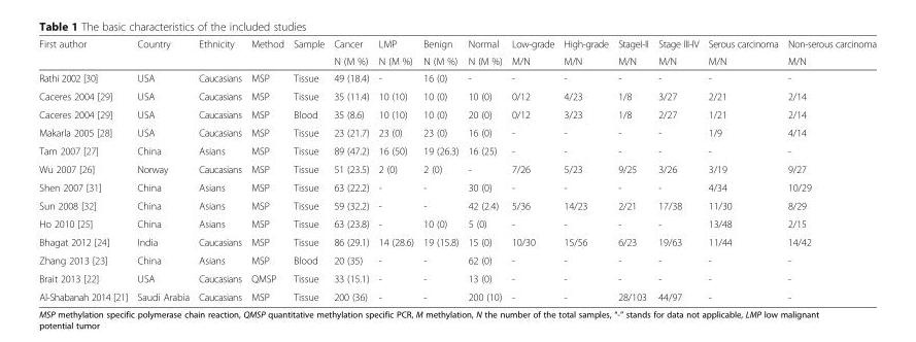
<table><thead><tr><td rowspan="2">First author</td><td rowspan="2">Country</td><td rowspan="2">Ethnicity</td><td rowspan="2">Method</td><td rowspan="2">Sample</td><td rowspan="2">Cancer N (M %)</td><td rowspan="2">LMP N (M %)</td><td rowspan="2">Benign N (M %)</td><td rowspan="2">Normal N (M %)</td><td rowspan="2">Low-grade M/N</td><td rowspan="2">High-grade M/N</td><td rowspan="2">StageI-II M/N</td><td rowspan="2">Stage III-IV M/N</td><td rowspan="2">Serous carcinoma M/N</td><td rowspan="2">Non-serous carcinoma M/N</td></tr><tr></tr></thead><tbody><tr><td>Rathi 2002 [30]</td><td>USA</td><td>Caucasians</td><td>MSP</td><td>Tissue</td><td>49 (18.4)</td><td>-</td><td>16 (0)</td><td>-</td><td>-</td><td>-</td><td>-</td><td>-</td><td>-</td><td>-</td></tr><tr><td>Caceres 2004 [29]</td><td>USA</td><td>Caucasians</td><td>MSP</td><td>Tissue</td><td>35 (11.4)</td><td>10 (10)</td><td>10 (0)</td><td>10 (0)</td><td>0/12</td><td>4/23</td><td>1/8</td><td>3/27</td><td>2/21</td><td>2/14</td></tr><tr><td>Caceres 2004 [29]</td><td>USA</td><td>Caucasians</td><td>MSP</td><td>Blood</td><td>35 (8.6)</td><td>10 (10)</td><td>10 (0)</td><td>20 (0)</td><td>0/12</td><td>3/23</td><td>1/8</td><td>2/27</td><td>1/21</td><td>2/14</td></tr><tr><td>Makarla 2005 [28]</td><td>USA</td><td>Caucasians</td><td>MSP</td><td>Tissue</td><td>23 (21.7)</td><td>23 (0)</td><td>23 (0)</td><td>16 (0)</td><td>-</td><td>-</td><td>-</td><td>-</td><td>1/9</td><td>4/14</td></tr><tr><td>Tam 2007 [27]</td><td>China</td><td>Asians</td><td>MSP</td><td>Tissue</td><td>89 (47.2)</td><td>16 (50)</td><td>19 (26.3)</td><td>16 (25)</td><td>-</td><td>-</td><td>-</td><td>-</td><td>-</td><td>-</td></tr><tr><td>Wu 2007 [26]</td><td>Norway</td><td>Caucasians</td><td>MSP</td><td>Tissue</td><td>51 (23.5)</td><td>2 (0)</td><td>2 (0)</td><td>-</td><td>7/26</td><td>5/23</td><td>9/25</td><td>3/26</td><td>3/19</td><td>9/27</td></tr><tr><td>Shen 2007 [31]</td><td>China</td><td>Asians</td><td>MSP</td><td>Tissue</td><td>63 (22.2)</td><td>-</td><td>-</td><td>30 (0)</td><td>-</td><td>-</td><td>-</td><td>-</td><td>4/34</td><td>10/29</td></tr><tr><td>Sun 2008 [32]</td><td>China</td><td>Asians</td><td>MSP</td><td>Tissue</td><td>59 (32.2)</td><td>-</td><td>-</td><td>42 (2.4)</td><td>5/36</td><td>14/23</td><td>2/21</td><td>17/38</td><td>11/30</td><td>8/29</td></tr><tr><td>Ho 2010 [25]</td><td>China</td><td>Asians</td><td>MSP</td><td>Tissue</td><td>63 (23.8)</td><td>-</td><td>10 (0)</td><td>5 (0)</td><td>-</td><td>-</td><td>-</td><td>-</td><td>13/48</td><td>2/15</td></tr><tr><td>Bhagat 2012 [24]</td><td>India</td><td>Caucasians</td><td>MSP</td><td>Tissue</td><td>86 (29.1)</td><td>14 (28.6)</td><td>19 (15.8)</td><td>15 (0)</td><td>10/30</td><td>15/56</td><td>6/23</td><td>19/63</td><td>11/44</td><td>14/42</td></tr><tr><td>Zhang 2013 [23]</td><td>China</td><td>Asians</td><td>MSP</td><td>Blood</td><td>20 (35)</td><td>-</td><td>-</td><td>62 (0)</td><td>-</td><td>-</td><td>-</td><td>-</td><td>-</td><td>-</td></tr><tr><td>Brait 2013 [22]</td><td>USA</td><td>Caucasians</td><td>QMSP</td><td>Tissue</td><td>33 (15.1)</td><td>-</td><td>-</td><td>13 (0)</td><td>-</td><td>-</td><td>-</td><td>-</td><td>-</td><td>-</td></tr><tr><td>Al-Shabanah 2014 [21]</td><td>Saudi Arabia</td><td>Caucasians</td><td>MSP</td><td>Tissue</td><td>200 (36)</td><td>-</td><td>-</td><td>200 (10)</td><td>-</td><td>-</td><td>28/103</td><td>44/97</td><td>-</td><td>-</td></tr></tbody></table>